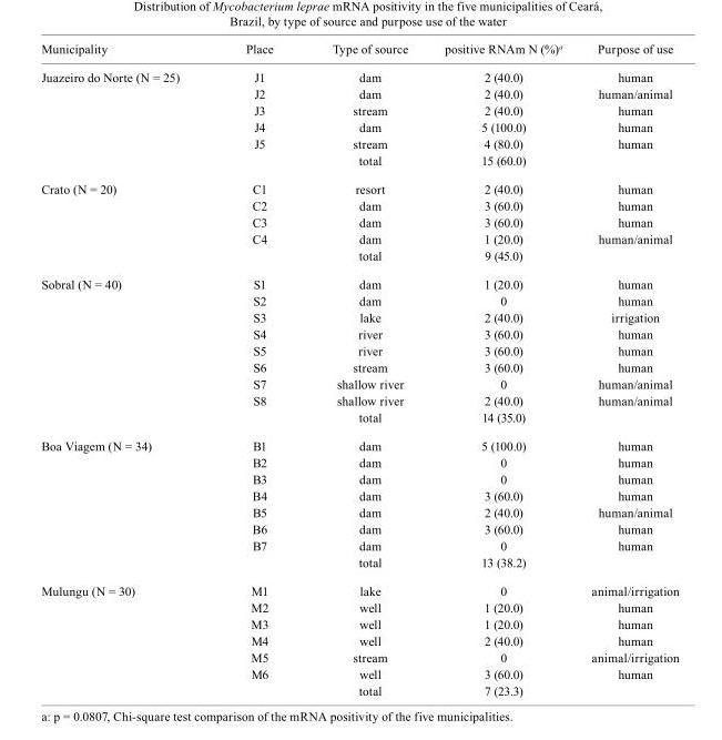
<table><thead><tr><td>Municipality</td><td>Place</td><td>Type of source</td><td>positive RNAm N (%)<sup>a</sup></td><td>Purpose of use</td></tr></thead><tbody><tr><td rowspan="6">Juazeiro do Norte (N = 25)</td><td>J1</td><td>dam</td><td>2 (40.0)</td><td>human</td></tr><tr><td>J2</td><td>dam</td><td>2 (40.0)</td><td>human/animal</td></tr><tr><td>J3</td><td>stream</td><td>2 (40.0)</td><td>human</td></tr><tr><td>J4</td><td>dam</td><td>5 (100.0)</td><td>human</td></tr><tr><td>J5</td><td>stream</td><td>4 (80.0)</td><td>human</td></tr><tr><td></td><td>total</td><td>15 (60.0)</td><td></td></tr><tr><td rowspan="5">Crato (N = 20)</td><td>C1</td><td>resort</td><td>2 (40.0)</td><td>human</td></tr><tr><td>C2</td><td>dam</td><td>3 (60.0)</td><td>human</td></tr><tr><td>C3</td><td>dam</td><td>3 (60.0)</td><td>human</td></tr><tr><td>C4</td><td>dam</td><td>1 (20.0)</td><td>human/animal</td></tr><tr><td></td><td>total</td><td>9 (45.0)</td><td></td></tr><tr><td rowspan="9">Sobral (N = 40)</td><td>S1</td><td>dam</td><td>1 (20.0)</td><td>human</td></tr><tr><td>S2</td><td>dam</td><td>0</td><td>human</td></tr><tr><td>S3</td><td>lake</td><td>2 (40.0)</td><td>irrigation</td></tr><tr><td>S4</td><td>river</td><td>3 (60.0)</td><td>human</td></tr><tr><td>S5</td><td>river</td><td>3 (60.0)</td><td>human</td></tr><tr><td>S6</td><td>stream</td><td>3 (60.0)</td><td>human</td></tr><tr><td>S7</td><td>shallow river</td><td>0</td><td>human/animal</td></tr><tr><td>S8</td><td>shallow river</td><td>2 (40.0)</td><td>human/animal</td></tr><tr><td></td><td>total</td><td>14 (35.0)</td><td></td></tr><tr><td rowspan="8">Boa Viagem (N = 34)</td><td>B1</td><td>dam</td><td>5 (100.0)</td><td>human</td></tr><tr><td>B2</td><td>dam</td><td>0</td><td>human</td></tr><tr><td>B3</td><td>dam</td><td>0</td><td>human</td></tr><tr><td>B4</td><td>dam</td><td>3 (60.0)</td><td>human</td></tr><tr><td>B5</td><td>dam</td><td>2 (40.0)</td><td>human/animal</td></tr><tr><td>B6</td><td>dam</td><td>3 (60.0)</td><td>human</td></tr><tr><td>B7</td><td>dam</td><td>0</td><td>human</td></tr><tr><td></td><td>total</td><td>13 (38.2)</td><td></td></tr><tr><td rowspan="7">Mulungu (N = 30)</td><td>M1</td><td>lake</td><td>0</td><td>animal/irrigation</td></tr><tr><td>M2</td><td>well</td><td>1 (20.0)</td><td>human</td></tr><tr><td>M3</td><td>well</td><td>1 (20.0)</td><td>human</td></tr><tr><td>M4</td><td>well</td><td>2 (40.0)</td><td>human</td></tr><tr><td>M5</td><td>stream</td><td>0</td><td>animal/irrigation</td></tr><tr><td>M6</td><td>well</td><td>3 (60.0)</td><td>human</td></tr><tr><td></td><td>total</td><td>7 (23.3)</td><td></td></tr></tbody></table>